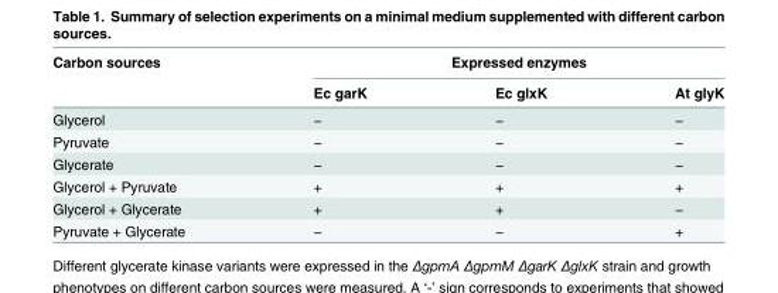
<table><thead><tr><td rowspan="2">Carbon sources</td><td colspan="3">Expressed enzymes</td></tr><tr><td>Ec garK</td><td>Ec glxK</td><td>At glyK</td></tr></thead><tbody><tr><td>Glycerol</td><td>−</td><td>−</td><td>−</td></tr><tr><td>Pyruvate</td><td>−</td><td>−</td><td>−</td></tr><tr><td>Glycerate</td><td>−</td><td>−</td><td>−</td></tr><tr><td>Glycerol + Pyruvate</td><td>+</td><td>+</td><td>+</td></tr><tr><td>Glycerol + Glycerate</td><td>+</td><td>+</td><td>−</td></tr><tr><td>Pyruvate + Glycerate</td><td>−</td><td>−</td><td>+</td></tr></tbody></table>